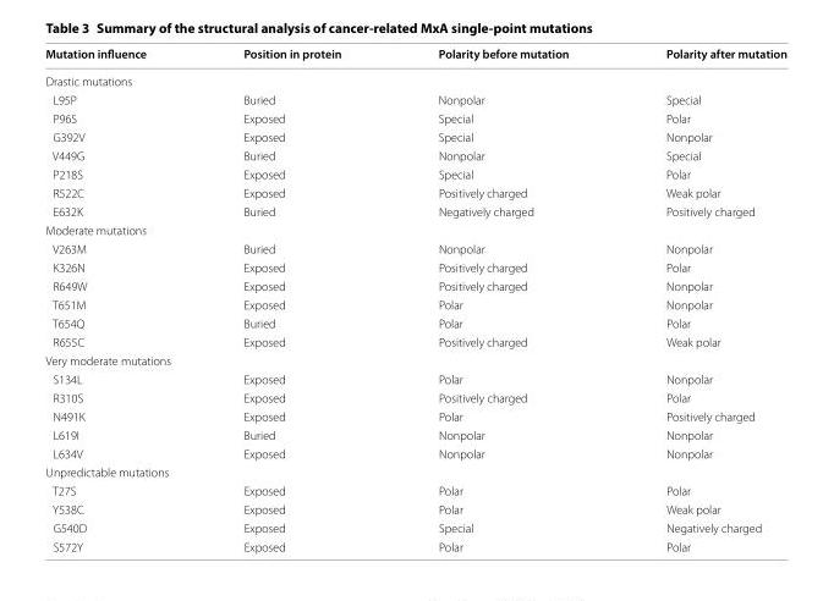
<table><thead><tr><td>Mutation influence</td><td>Position in protein</td><td>Polarity before mutation</td><td>Polarity after mutation</td></tr></thead><tbody><tr><td colspan="4">Drastic mutations</td></tr><tr><td>L95P</td><td>Buried</td><td>Nonpolar</td><td>Special</td></tr><tr><td>P96S</td><td>Exposed</td><td>Special</td><td>Polar</td></tr><tr><td>G392V</td><td>Exposed</td><td>Special</td><td>Nonpolar</td></tr><tr><td>V449G</td><td>Buried</td><td>Nonpolar</td><td>Special</td></tr><tr><td>P218S</td><td>Exposed</td><td>Special</td><td>Polar</td></tr><tr><td>R522C</td><td>Exposed</td><td>Positively charged</td><td>Weak polar</td></tr><tr><td>E632K</td><td>Buried</td><td>Negatively charged</td><td>Positively charged</td></tr><tr><td colspan="4">Moderate mutations</td></tr><tr><td>V263M</td><td>Buried</td><td>Nonpolar</td><td>Nonpolar</td></tr><tr><td>K326N</td><td>Exposed</td><td>Positively charged</td><td>Polar</td></tr><tr><td>R649W</td><td>Exposed</td><td>Positively charged</td><td>Nonpolar</td></tr><tr><td>T651M</td><td>Exposed</td><td>Polar</td><td>Nonpolar</td></tr><tr><td>T654Q</td><td>Buried</td><td>Polar</td><td>Polar</td></tr><tr><td>R655C</td><td>Exposed</td><td>Positively charged</td><td>Weak polar</td></tr><tr><td colspan="4">Very moderate mutations</td></tr><tr><td>S134L</td><td>Exposed</td><td>Polar</td><td>Nonpolar</td></tr><tr><td>R310S</td><td>Exposed</td><td>Positively charged</td><td>Polar</td></tr><tr><td>N491K</td><td>Exposed</td><td>Polar</td><td>Positively charged</td></tr><tr><td>L619I</td><td>Buried</td><td>Nonpolar</td><td>Nonpolar</td></tr><tr><td>L634V</td><td>Exposed</td><td>Nonpolar</td><td>Nonpolar</td></tr><tr><td colspan="4">Unpredictable mutations</td></tr><tr><td>T27S</td><td>Exposed</td><td>Polar</td><td>Polar</td></tr><tr><td>Y538C</td><td>Exposed</td><td>Polar</td><td>Weak polar</td></tr><tr><td>G540D</td><td>Exposed</td><td>Special</td><td>Negatively charged</td></tr><tr><td>S572Y</td><td>Exposed</td><td>Polar</td><td>Polar</td></tr></tbody></table>